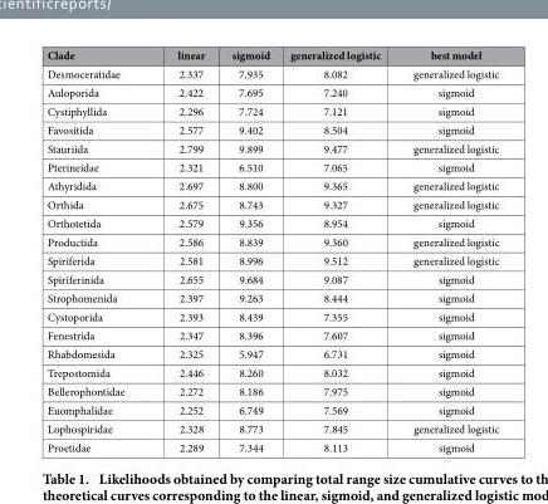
<table><thead><tr><td>Clade</td><td>linear</td><td>sigmoid</td><td>generalized logistic</td><td>best model</td></tr></thead><tbody><tr><td>Desmoceratidae</td><td>2.337</td><td>7.935</td><td>8.082</td><td>generalized logistic</td></tr><tr><td>Auloporida</td><td>2.422</td><td>7.695</td><td>7.240</td><td>sigmoid</td></tr><tr><td>Cystiphyllida</td><td>2.296</td><td>7.724</td><td>7.121</td><td>sigmoid</td></tr><tr><td>Favositida</td><td>2.577</td><td>9.402</td><td>8.504</td><td>sigmoid</td></tr><tr><td>Stauriida</td><td>2.799</td><td>9.899</td><td>9.477</td><td>generalized logistic</td></tr><tr><td>Pterineidae</td><td>2.321</td><td>6.510</td><td>7.065</td><td>sigmoid</td></tr><tr><td>Athyridida</td><td>2.697</td><td>8.800</td><td>9.365</td><td>generalized logistic</td></tr><tr><td>Orthida</td><td>2.675</td><td>8.743</td><td>9.327</td><td>generalized logistic</td></tr><tr><td>Orthotetida</td><td>2.579</td><td>9.356</td><td>8.954</td><td>sigmoid</td></tr><tr><td>Productida</td><td>2.586</td><td>8.839</td><td>9.360</td><td>generalized logistic</td></tr><tr><td>Spiriferida</td><td>2.581</td><td>8.996</td><td>9.512</td><td>generalized logistic</td></tr><tr><td>Spiriferinida</td><td>2.655</td><td>9.684</td><td>9.087</td><td>sigmoid</td></tr><tr><td>Strophomenida</td><td>2.397</td><td>9.263</td><td>8.444</td><td>sigmoid</td></tr><tr><td>Cystoporida</td><td>2.393</td><td>8.439</td><td>7.355</td><td>sigmoid</td></tr><tr><td>Fenestrida</td><td>2.347</td><td>8.396</td><td>7.607</td><td>sigmoid</td></tr><tr><td>Rhabdomesida</td><td>2.325</td><td>5.947</td><td>6.731</td><td>sigmoid</td></tr><tr><td>Trepostomida</td><td>2.446</td><td>8.260</td><td>8.032</td><td>sigmoid</td></tr><tr><td>Bellerophontidae</td><td>2.272</td><td>8.186</td><td>7.975</td><td>sigmoid</td></tr><tr><td>Euomphalidae</td><td>2.252</td><td>6.749</td><td>7.569</td><td>sigmoid</td></tr><tr><td>Lophospiridae</td><td>2.328</td><td>8.773</td><td>7.845</td><td>generalized logistic</td></tr><tr><td>Proetidae</td><td>2.289</td><td>7.344</td><td>8.113</td><td>sigmoid</td></tr></tbody></table>